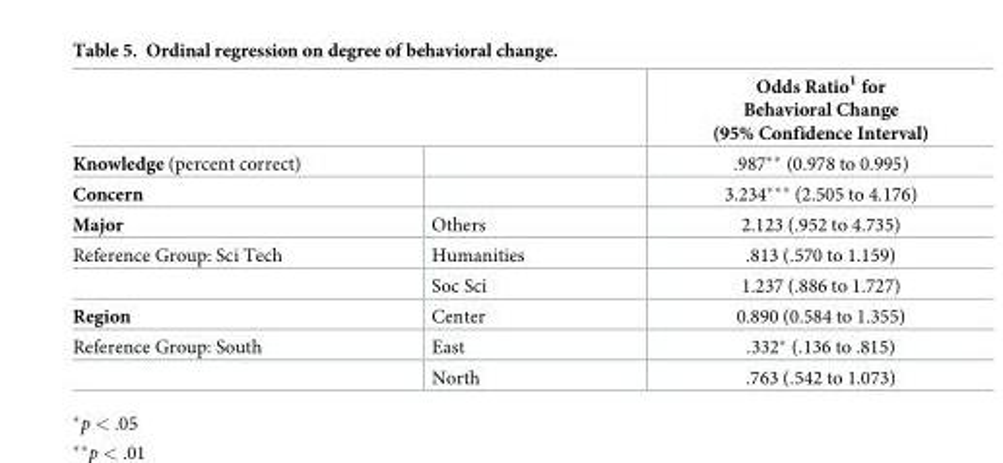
<table><thead><tr><td></td><td></td><td>Odds Ratio<sup>1</sup> for Behavioral Change (95% Confidence Interval)</td></tr></thead><tbody><tr><td>Knowledge (percent correct)</td><td></td><td>.987** (0.978 to 0.995)</td></tr><tr><td>Concern</td><td></td><td>3.234*** (2.505 to 4.176)</td></tr><tr><td>Major</td><td>Others</td><td>2.123 (.952 to 4.735)</td></tr><tr><td rowspan="2">Reference Group: Sci Tech</td><td>Humanities</td><td>.813 (.570 to 1.159)</td></tr><tr><td>Soc Sci</td><td>1.237 (.886 to 1.727)</td></tr><tr><td>Region</td><td>Center</td><td>0.890 (0.584 to 1.355)</td></tr><tr><td rowspan="2">Reference Group: South</td><td>East</td><td>.332* (.136 to .815)</td></tr><tr><td>North</td><td>.763 (.542 to 1.073)</td></tr></tbody></table>